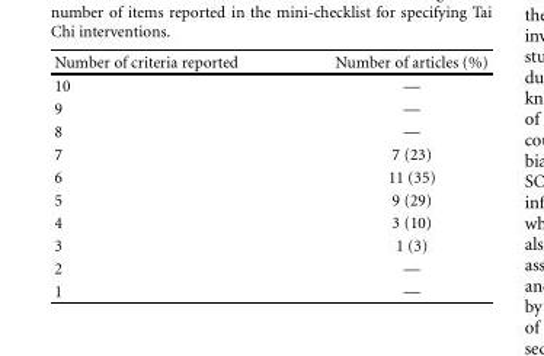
<table><thead><tr><td>Number of criteria reported</td><td>Number of articles (%)</td></tr></thead><tbody><tr><td>10</td><td>—</td></tr><tr><td>9</td><td>—</td></tr><tr><td>8</td><td>—</td></tr><tr><td>7</td><td>7 (23)</td></tr><tr><td>6</td><td>11 (35)</td></tr><tr><td>5</td><td>9 (29)</td></tr><tr><td>4</td><td>3 (10)</td></tr><tr><td>3</td><td>1 (3)</td></tr><tr><td>2</td><td>—</td></tr><tr><td>1</td><td>—</td></tr></tbody></table>